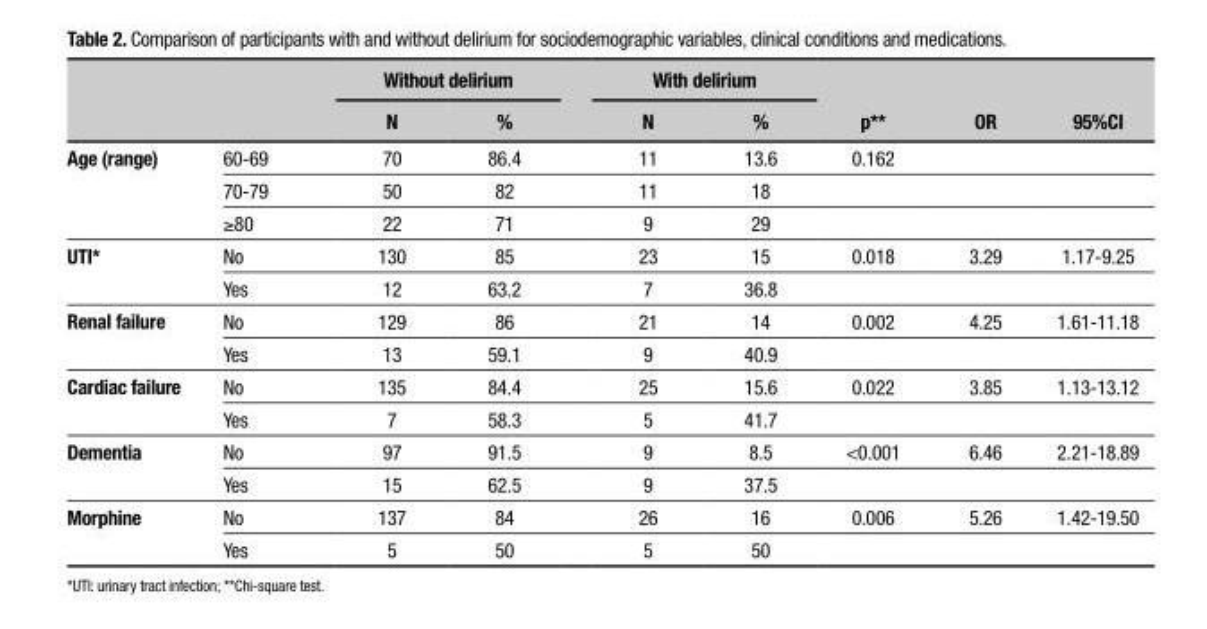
<table><thead><tr><td rowspan="2"></td><td rowspan="2"></td><td colspan="2">Without delirium</td><td colspan="2">With delirium</td><td rowspan="2">p**</td><td rowspan="2">OR</td><td rowspan="2">95%CI</td></tr><tr><td>N</td><td>%</td><td>N</td><td>%</td></tr></thead><tbody><tr><td rowspan="3">Age (range)</td><td>60-69</td><td>70</td><td>86.4</td><td>11</td><td>13.6</td><td>0.162</td><td></td><td></td></tr><tr><td>70-79</td><td>50</td><td>82</td><td>11</td><td>18</td><td></td><td></td><td></td></tr><tr><td>≥80</td><td>22</td><td>71</td><td>9</td><td>29</td><td></td><td></td><td></td></tr><tr><td rowspan="2">UTI*</td><td>No</td><td>130</td><td>85</td><td>23</td><td>15</td><td>0.018</td><td>3.29</td><td>1.17-9.25</td></tr><tr><td>Yes</td><td>12</td><td>63.2</td><td>7</td><td>36.8</td><td></td><td></td><td></td></tr><tr><td rowspan="2">Renal failure</td><td>No</td><td>129</td><td>86</td><td>21</td><td>14</td><td>0.002</td><td>4.25</td><td>1.61-11.18</td></tr><tr><td>Yes</td><td>13</td><td>59.1</td><td>9</td><td>40.9</td><td></td><td></td><td></td></tr><tr><td rowspan="2">Cardiac failure</td><td>No</td><td>135</td><td>84.4</td><td>25</td><td>15.6</td><td>0.022</td><td>3.85</td><td>1.13-13.12</td></tr><tr><td>Yes</td><td>7</td><td>58.3</td><td>5</td><td>41.7</td><td></td><td></td><td></td></tr><tr><td rowspan="2">Dementia</td><td>No</td><td>97</td><td>91.5</td><td>9</td><td>8.5</td><td>&lt;0.001</td><td>6.46</td><td>2.21-18.89</td></tr><tr><td>Yes</td><td>15</td><td>62.5</td><td>9</td><td>37.5</td><td></td><td></td><td></td></tr><tr><td rowspan="2">Morphine</td><td>No</td><td>137</td><td>84</td><td>26</td><td>16</td><td>0.006</td><td>5.26</td><td>1.42-19.50</td></tr><tr><td>Yes</td><td>5</td><td>50</td><td>5</td><td>50</td><td></td><td></td><td></td></tr></tbody></table>